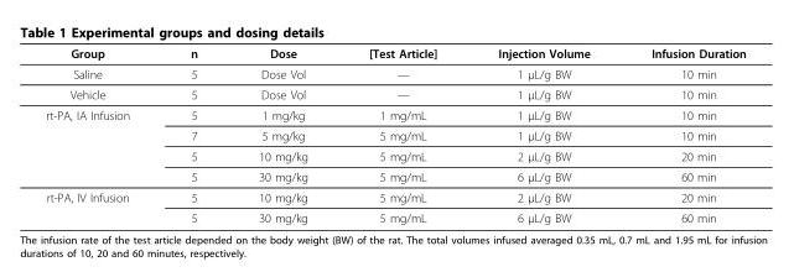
<table><thead><tr><td>Group</td><td>n</td><td>Dose</td><td>[Test Article]</td><td>Injection Volume</td><td>Infusion Duration</td></tr></thead><tbody><tr><td>Saline</td><td>5</td><td>Dose Vol</td><td>—</td><td>1 μL/g BW</td><td>10 min</td></tr><tr><td>Vehicle</td><td>5</td><td>Dose Vol</td><td>—</td><td>1 μL/g BW</td><td>10 min</td></tr><tr><td rowspan="4">rt-PA, IA Infusion</td><td>5</td><td>1 mg/kg</td><td>1 mg/mL</td><td>1 μL/g BW</td><td>10 min</td></tr><tr><td>7</td><td>5 mg/kg</td><td>5 mg/mL</td><td>1 μL/g BW</td><td>10 min</td></tr><tr><td>5</td><td>10 mg/kg</td><td>5 mg/mL</td><td>2 μL/g BW</td><td>20 min</td></tr><tr><td>5</td><td>30 mg/kg</td><td>5 mg/mL</td><td>6 μL/g BW</td><td>60 min</td></tr><tr><td rowspan="2">rt-PA, IV Infusion</td><td>5</td><td>10 mg/kg</td><td>5 mg/mL</td><td>2 μL/g BW</td><td>20 min</td></tr><tr><td>5</td><td>30 mg/kg</td><td>5 mg/mL</td><td>6 μL/g BW</td><td>60 min</td></tr></tbody></table>